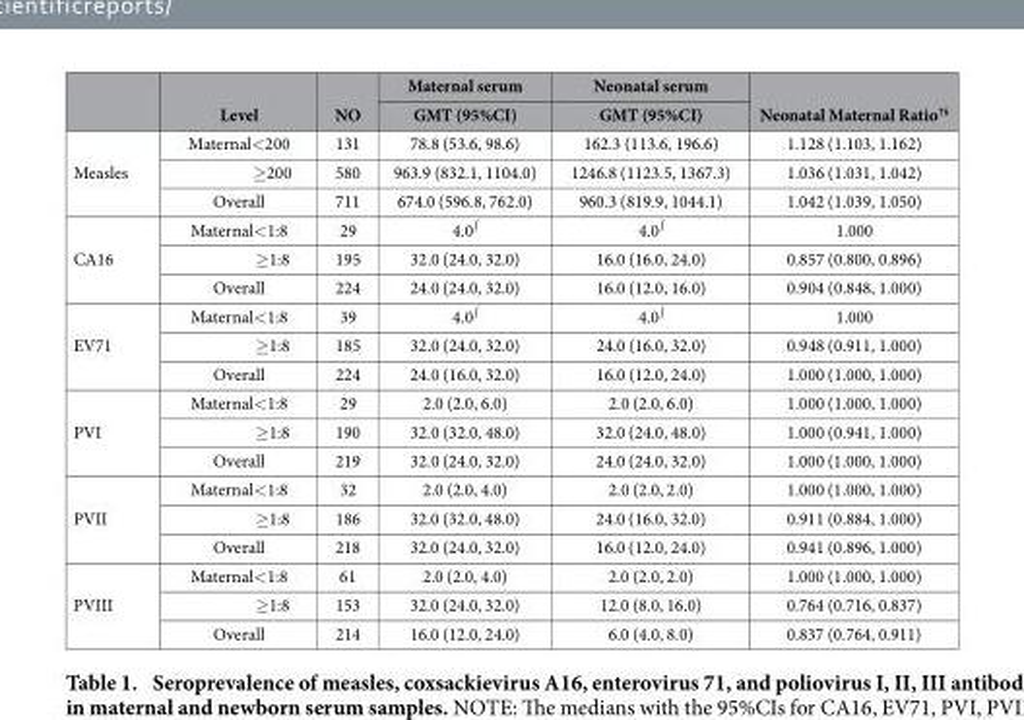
<table><thead><tr><td rowspan="2"></td><td rowspan="2">Level</td><td rowspan="2">NO</td><td rowspan="2">Maternal serum GMT (95%CI)</td><td rowspan="2">Neonatal serum GMT (95%CI)</td><td rowspan="2">Neonatal Maternal Ratio<sup>†§</sup></td></tr><tr></tr></thead><tbody><tr><td rowspan="3">Measles</td><td>Maternal&lt; 200</td><td>131</td><td>78.8 (53.6, 98.6)</td><td>162.3 (113.6, 196.6)</td><td>1.128 (1.103, 1.162)</td></tr><tr><td>≥ 200</td><td>580</td><td>963.9 (832.1, 1104.0)</td><td>1246.8 (1123.5, 1367.3)</td><td>1.036 (1.031, 1.042)</td></tr><tr><td>Overall</td><td>711</td><td>674.0 (596.8, 762.0)</td><td>960.3 (819.9, 1044.1)</td><td>1.042 (1.039, 1.050)</td></tr><tr><td rowspan="3">CA16</td><td>Maternal&lt; 1:8</td><td>29</td><td>4.0<sup>∫</sup></td><td>4.0<sup>∫</sup></td><td>1.000</td></tr><tr><td>≥ 1:8</td><td>195</td><td>32.0 (24.0, 32.0)</td><td>16.0 (16.0, 24.0)</td><td>0.857 (0.800, 0.896)</td></tr><tr><td>Overall</td><td>224</td><td>24.0 (24.0, 32.0)</td><td>16.0 (12.0, 16.0)</td><td>0.904 (0.848, 1.000)</td></tr><tr><td rowspan="3">EV71</td><td>Maternal&lt; 1:8</td><td>39</td><td>4.0<sup>∫</sup></td><td>4.0<sup>∫</sup></td><td>1.000</td></tr><tr><td>≥ 1:8</td><td>185</td><td>32.0 (24.0, 32.0)</td><td>24.0 (16.0, 32.0)</td><td>0.948 (0.911, 1.000)</td></tr><tr><td>Overall</td><td>224</td><td>24.0 (16.0, 32.0)</td><td>16.0 (12.0, 24.0)</td><td>1.000 (1.000, 1.000)</td></tr><tr><td rowspan="3">PVI</td><td>Maternal&lt; 1:8</td><td>29</td><td>2.0 (2.0, 6.0)</td><td>2.0 (2.0, 6.0)</td><td>1.000 (1.000, 1.000)</td></tr><tr><td>≥ 1:8</td><td>190</td><td>32.0 (32.0, 48.0)</td><td>32.0 (24.0, 48.0)</td><td>1.000 (0.941, 1.000)</td></tr><tr><td>Overall</td><td>219</td><td>32.0 (24.0, 32.0)</td><td>24.0 (24.0, 32.0)</td><td>1.000 (1.000, 1.000)</td></tr><tr><td rowspan="3">PVII</td><td>Maternal&lt; 1:8</td><td>32</td><td>2.0 (2.0, 4.0)</td><td>2.0 (2.0, 2.0)</td><td>1.000 (1.000, 1.000)</td></tr><tr><td>≥ 1:8</td><td>186</td><td>32.0 (32.0, 48.0)</td><td>24.0 (16.0, 32.0)</td><td>0.911 (0.884, 1.000)</td></tr><tr><td>Overall</td><td>218</td><td>32.0 (24.0, 32.0)</td><td>16.0 (12.0, 24.0)</td><td>0.941 (0.896, 1.000)</td></tr><tr><td rowspan="3">PVIII</td><td>Maternal&lt; 1:8</td><td>61</td><td>2.0 (2.0, 4.0)</td><td>2.0 (2.0, 2.0)</td><td>1.000 (1.000, 1.000)</td></tr><tr><td>≥ 1:8</td><td>153</td><td>32.0 (24.0, 32.0)</td><td>12.0 (8.0, 16.0)</td><td>0.764 (0.716, 0.837)</td></tr><tr><td>Overall</td><td>214</td><td>16.0 (12.0, 24.0)</td><td>6.0 (4.0, 8.0)</td><td>0.837 (0.764, 0.911)</td></tr></tbody></table>